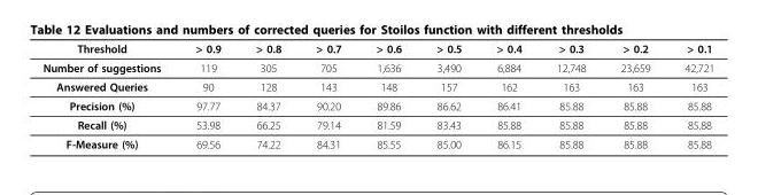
<table><thead><tr><td>Threshold</td><td>&gt; 0.9</td><td>&gt; 0.8</td><td>&gt; 0.7</td><td>&gt; 0.6</td><td>&gt; 0.5</td><td>&gt; 0.4</td><td>&gt; 0.3</td><td>&gt; 0.2</td><td>&gt; 0.1</td></tr></thead><tbody><tr><td>Number of suggestions</td><td>119</td><td>305</td><td>705</td><td>1,636</td><td>3,490</td><td>6,884</td><td>12,748</td><td>23,659</td><td>42,721</td></tr><tr><td>Answered Queries</td><td>90</td><td>128</td><td>143</td><td>148</td><td>157</td><td>162</td><td>163</td><td>163</td><td>163</td></tr><tr><td>Precision (%)</td><td>97.77</td><td>84.37</td><td>90.20</td><td>89.86</td><td>86.62</td><td>86.41</td><td>85.88</td><td>85.88</td><td>85.88</td></tr><tr><td>Recall (%)</td><td>53.98</td><td>66.25</td><td>79.14</td><td>81.59</td><td>83.43</td><td>85.88</td><td>85.88</td><td>85.88</td><td>85.88</td></tr><tr><td>F-Measure (%)</td><td>69.56</td><td>74.22</td><td>84.31</td><td>85.55</td><td>85.00</td><td>86.15</td><td>85.88</td><td>85.88</td><td>85.88</td></tr></tbody></table>